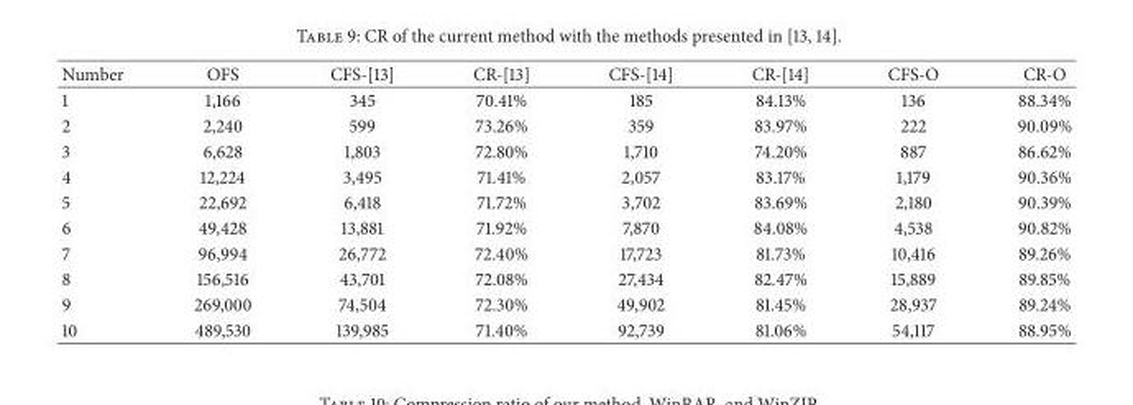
<table><thead><tr><td>Number</td><td>OFS</td><td>CFS-[13]</td><td>CR-[13]</td><td>CFS-[14]</td><td>CR-[14]</td><td>CFS-O</td><td>CR-O</td></tr></thead><tbody><tr><td>1</td><td>1,166</td><td>345</td><td>70.41%</td><td>185</td><td>84.13%</td><td>136</td><td>88.34%</td></tr><tr><td>2</td><td>2,240</td><td>599</td><td>73.26%</td><td>359</td><td>83.97%</td><td>222</td><td>90.09%</td></tr><tr><td>3</td><td>6,628</td><td>1,803</td><td>72.80%</td><td>1,710</td><td>74.20%</td><td>887</td><td>86.62%</td></tr><tr><td>4</td><td>12,224</td><td>3,495</td><td>71.41%</td><td>2,057</td><td>83.17%</td><td>1,179</td><td>90.36%</td></tr><tr><td>5</td><td>22,692</td><td>6,418</td><td>71.72%</td><td>3,702</td><td>83.69%</td><td>2,180</td><td>90.39%</td></tr><tr><td>6</td><td>49,428</td><td>13,881</td><td>71.92%</td><td>7,870</td><td>84.08%</td><td>4,538</td><td>90.82%</td></tr><tr><td>7</td><td>96,994</td><td>26,772</td><td>72.40%</td><td>17,723</td><td>81.73%</td><td>10,416</td><td>89.26%</td></tr><tr><td>8</td><td>156,516</td><td>43,701</td><td>72.08%</td><td>27,434</td><td>82.47%</td><td>15,889</td><td>89.85%</td></tr><tr><td>9</td><td>269,000</td><td>74,504</td><td>72.30%</td><td>49,902</td><td>81.45%</td><td>28,937</td><td>89.24%</td></tr><tr><td>10</td><td>489,530</td><td>139,985</td><td>71.40%</td><td>92,739</td><td>81.06%</td><td>54,117</td><td>88.95%</td></tr></tbody></table>